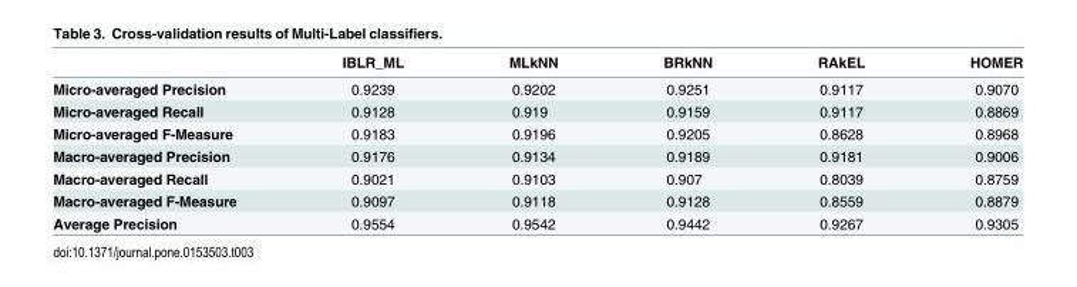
<table><thead><tr><td></td><td>IBLR_ML</td><td>MLkNN</td><td>BRkNN</td><td>RAkEL</td><td>HOMER</td></tr></thead><tbody><tr><td>Micro-averaged Precision</td><td>0.9239</td><td>0.9202</td><td>0.9251</td><td>0.9117</td><td>0.9070</td></tr><tr><td>Micro-averaged Recall</td><td>0.9128</td><td>0.919</td><td>0.9159</td><td>0.9117</td><td>0.8869</td></tr><tr><td>Micro-averaged F-Measure</td><td>0.9183</td><td>0.9196</td><td>0.9205</td><td>0.8628</td><td>0.8968</td></tr><tr><td>Macro-averaged Precision</td><td>0.9176</td><td>0.9134</td><td>0.9189</td><td>0.9181</td><td>0.9006</td></tr><tr><td>Macro-averaged Recall</td><td>0.9021</td><td>0.9103</td><td>0.907</td><td>0.8039</td><td>0.8759</td></tr><tr><td>Macro-averaged F-Measure</td><td>0.9097</td><td>0.9118</td><td>0.9128</td><td>0.8559</td><td>0.8879</td></tr><tr><td>Average Precision</td><td>0.9554</td><td>0.9542</td><td>0.9442</td><td>0.9267</td><td>0.9305</td></tr></tbody></table>